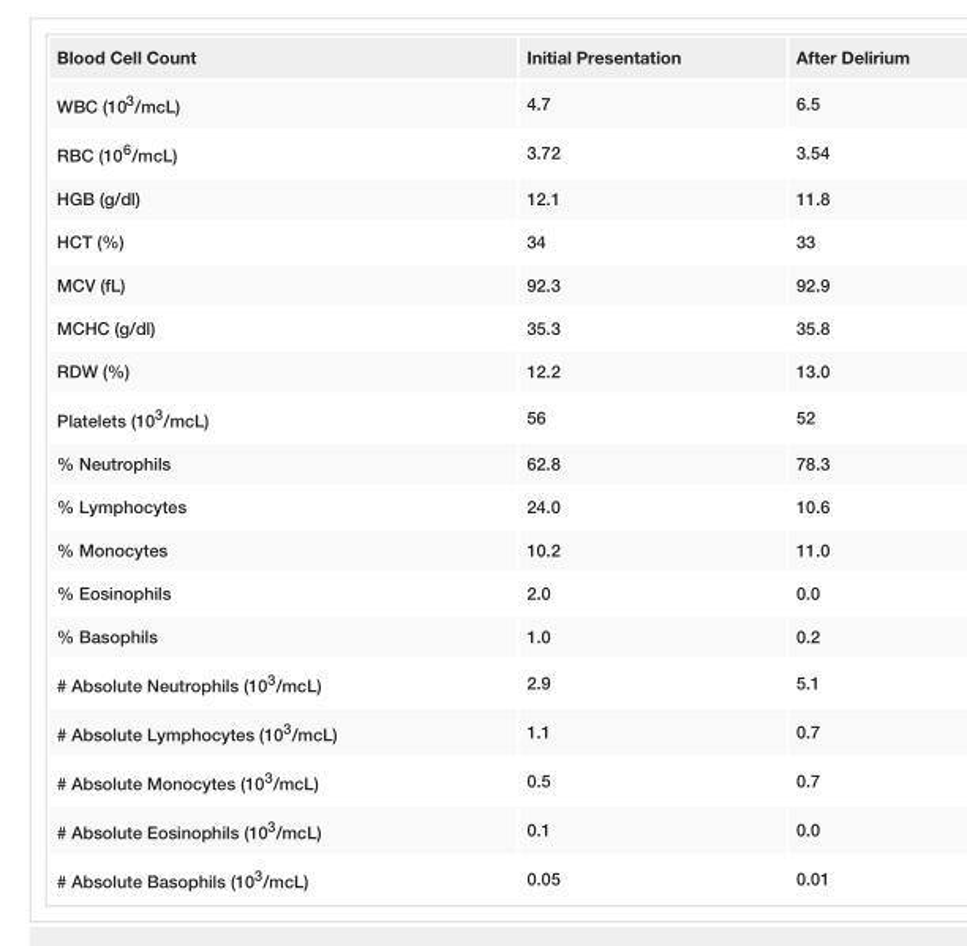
<table><tbody><tr><td>Blood Cell Count</td><td>Initial Presentation</td><td>After Delirium</td></tr><tr><td>WBC (10<sup>3</sup>/mcL)</td><td>4.7</td><td>6.5</td></tr><tr><td>RBC (10<sup>6</sup>/mcL)</td><td>3.72</td><td>3.54</td></tr><tr><td>HGB (g/dl)</td><td>12.1</td><td>11.8</td></tr><tr><td>HCT (%)</td><td>34</td><td>33</td></tr><tr><td>MCV (fL)</td><td>92.3</td><td>92.9</td></tr><tr><td>MCHC (g/dl)</td><td>35.3</td><td>35.8</td></tr><tr><td>RDW (%)</td><td>12.2</td><td>13.0</td></tr><tr><td>Platelets (10<sup>3</sup>/mcL)</td><td>56</td><td>52</td></tr><tr><td>% Neutrophils</td><td>62.8</td><td>78.3</td></tr><tr><td>% Lymphocytes</td><td>24.0</td><td>10.6</td></tr><tr><td>% Monocytes</td><td>10.2</td><td>11.0</td></tr><tr><td>% Eosinophils</td><td>2.0</td><td>0.0</td></tr><tr><td>% Basophils</td><td>1.0</td><td>0.2</td></tr><tr><td># Absolute Neutrophils (10<sup>3</sup>/mcL)</td><td>2.9</td><td>5.1</td></tr><tr><td># Absolute Lymphocytes (10<sup>3</sup>/mcL)</td><td>1.1</td><td>0.7</td></tr><tr><td># Absolute Monocytes (10<sup>3</sup>/mcL)</td><td>0.5</td><td>0.7</td></tr><tr><td># Absolute Eosinophils (10<sup>3</sup>/mcL)</td><td>0.1</td><td>0.0</td></tr><tr><td># Absolute Basophils (10<sup>3</sup>/mcL)</td><td>0.05</td><td>0.01</td></tr></tbody></table>